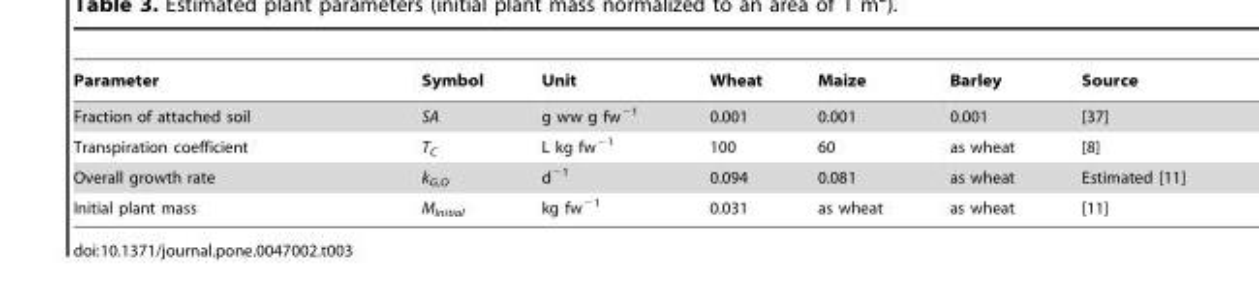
<table><thead><tr><td>Parameter</td><td>Symbol</td><td>Unit</td><td>Wheat</td><td>Maize</td><td>Barley</td><td>Source</td></tr></thead><tbody><tr><td>Fraction of attached soil</td><td>SA</td><td>g ww g fw<sup>−1</sup></td><td>0.001</td><td>0.001</td><td>0.001</td><td>[37]</td></tr><tr><td>Transpiration coefficient</td><td>T<sub>C</sub></td><td>L kg fw<sup>−1</sup></td><td>100</td><td>60</td><td>as wheat</td><td>[8]</td></tr><tr><td>Overall growth rate</td><td>k<sub>G,O</sub></td><td>d<sup>−1</sup></td><td>0.094</td><td>0.081</td><td>as wheat</td><td>Estimated [11]</td></tr><tr><td>Initial plant mass</td><td>M<sub>Initial</sub></td><td>kg fw<sup>−1</sup></td><td>0.031</td><td>as wheat</td><td>as wheat</td><td>[11]</td></tr></tbody></table>